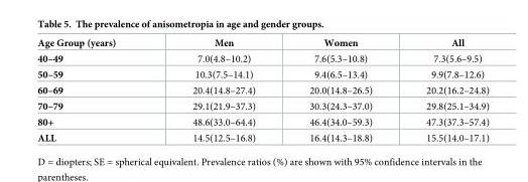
<table><thead><tr><td>Age Group (years)</td><td>Men</td><td>Women</td><td>All</td></tr></thead><tbody><tr><td>40–49</td><td>7.0(4.8–10.2)</td><td>7.6(5.3–10.8)</td><td>7.3(5.6–9.5)</td></tr><tr><td>50–59</td><td>10.3(7.5–14.1)</td><td>9.4(6.5–13.4)</td><td>9.9(7.8–12.6)</td></tr><tr><td>60–69</td><td>20.4(14.8–27.4)</td><td>20.0(14.8–26.5)</td><td>20.2(16.2–24.8)</td></tr><tr><td>70–79</td><td>29.1(21.9–37.3)</td><td>30.3(24.3–37.0)</td><td>29.8(25.1–34.9)</td></tr><tr><td>80+</td><td>48.6(33.0–64.4)</td><td>46.4(34.0–59.3)</td><td>47.3(37.3–57.4)</td></tr><tr><td>ALL</td><td>14.5(12.5–16.8)</td><td>16.4(14.3–18.8)</td><td>15.5(14.0–17.1)</td></tr></tbody></table>